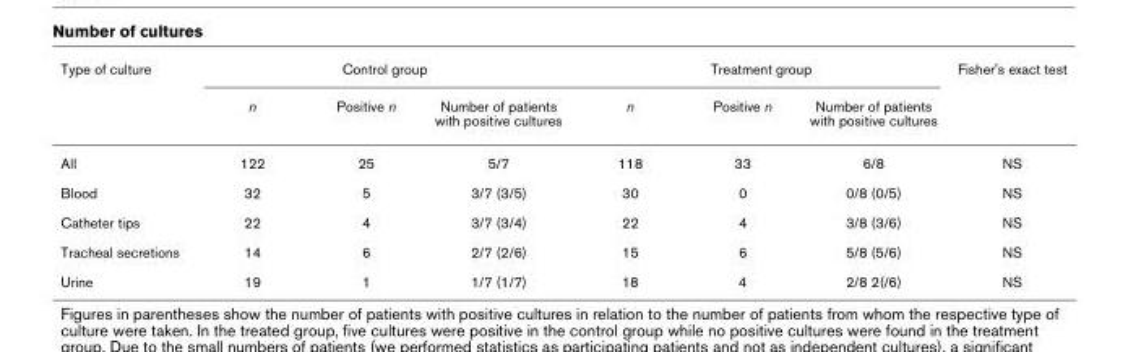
<table><thead><tr><td rowspan="2">Type of culture</td><td colspan="3">Control group</td><td colspan="3">Treatment group</td><td rowspan="2">Fisher&#x27;s exact test</td></tr><tr><td>n</td><td>Positive n</td><td>Number of patients with positive cultures</td><td>n</td><td>Positive n</td><td>Number of patients with positive cultures</td></tr></thead><tbody><tr><td>All</td><td>122</td><td>25</td><td>5/7</td><td>118</td><td>33</td><td>6/8</td><td>NS</td></tr><tr><td>Blood</td><td>32</td><td>5</td><td>3/7 (3/5)</td><td>30</td><td>0</td><td>0/8 (0/5)</td><td>NS</td></tr><tr><td>Catheter tips</td><td>22</td><td>4</td><td>3/7 (3/4)</td><td>22</td><td>4</td><td>3/8 (3/6)</td><td>NS</td></tr><tr><td>Tracheal secretions</td><td>14</td><td>6</td><td>2/7 (2/6)</td><td>15</td><td>6</td><td>5/8 (5/6)</td><td>NS</td></tr><tr><td>Urine</td><td>19</td><td>1</td><td>1/7 (1/7)</td><td>18</td><td>4</td><td>2/8 2(/6)</td><td>NS</td></tr></tbody></table>